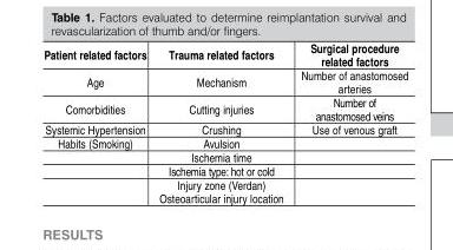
<table><thead><tr><td>Patient related factors</td><td>Trauma related factors</td><td>Surgical procedure related factors</td></tr></thead><tbody><tr><td>Age</td><td>Mechanism</td><td>Number of anastomosed arteries</td></tr><tr><td>Comorbidities</td><td>Cutting injuries</td><td>Number of anastomosed veins</td></tr><tr><td>Systemic Hypertension</td><td>Crushing</td><td>Use of venous graft</td></tr><tr><td rowspan="4">Habits (Smoking)</td><td>Avulsion</td><td></td></tr><tr><td>Ischemia time</td><td></td></tr><tr><td>Ischemia type: hot or cold</td><td></td></tr><tr><td>Injury zone (Verdan) Osteoarticular injury location</td><td></td></tr></tbody></table>